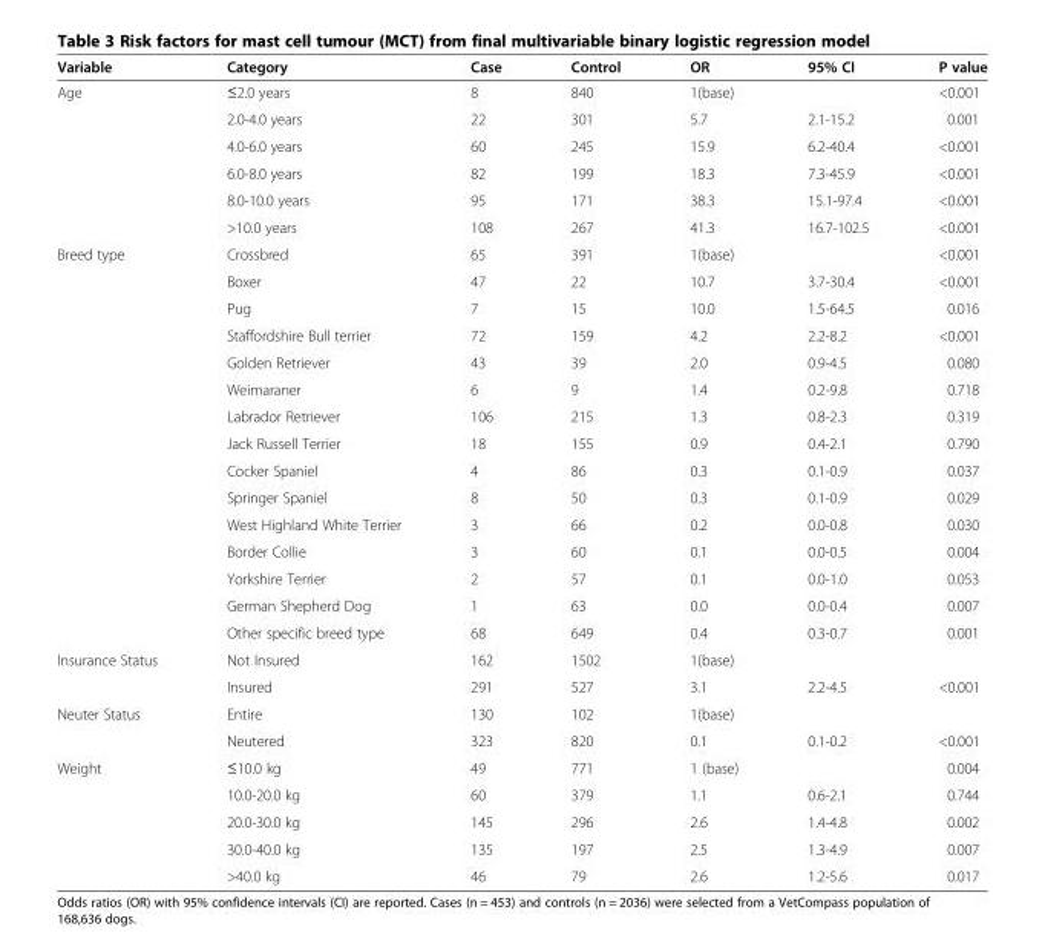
<table><thead><tr><td>Variable</td><td>Category</td><td>Case</td><td>Control</td><td>OR</td><td>95% CI</td><td>P value</td></tr></thead><tbody><tr><td rowspan="6">Age</td><td>≤2.0 years</td><td>8</td><td>840</td><td>1(base)</td><td></td><td>&lt;0.001</td></tr><tr><td>2.0-4.0 years</td><td>22</td><td>301</td><td>5.7</td><td>2.1-15.2</td><td>0.001</td></tr><tr><td>4.0-6.0 years</td><td>60</td><td>245</td><td>15.9</td><td>6.2-40.4</td><td>&lt;0.001</td></tr><tr><td>6.0-8.0 years</td><td>82</td><td>199</td><td>18.3</td><td>7.3-45.9</td><td>&lt;0.001</td></tr><tr><td>8.0-10.0 years</td><td>95</td><td>171</td><td>38.3</td><td>15.1-97.4</td><td>&lt;0.001</td></tr><tr><td>&gt;10.0 years</td><td>108</td><td>267</td><td>41.3</td><td>16.7-102.5</td><td>&lt;0.001</td></tr><tr><td rowspan="15">Breed type</td><td>Crossbred</td><td>65</td><td>391</td><td>1(base)</td><td></td><td>&lt;0.001</td></tr><tr><td>Boxer</td><td>47</td><td>22</td><td>10.7</td><td>3.7-30.4</td><td>&lt;0.001</td></tr><tr><td>Pug</td><td>7</td><td>15</td><td>10.0</td><td>1.5-64.5</td><td>0.016</td></tr><tr><td>Staffordshire Bull terrier</td><td>72</td><td>159</td><td>4.2</td><td>2.2-8.2</td><td>&lt;0.001</td></tr><tr><td>Golden Retriever</td><td>43</td><td>39</td><td>2.0</td><td>0.9-4.5</td><td>0.080</td></tr><tr><td>Weimaraner</td><td>6</td><td>9</td><td>1.4</td><td>0.2-9.8</td><td>0.718</td></tr><tr><td>Labrador Retriever</td><td>106</td><td>215</td><td>1.3</td><td>0.8-2.3</td><td>0.319</td></tr><tr><td>Jack Russell Terrier</td><td>18</td><td>155</td><td>0.9</td><td>0.4-2.1</td><td>0.790</td></tr><tr><td>Cocker Spaniel</td><td>4</td><td>86</td><td>0.3</td><td>0.1-0.9</td><td>0.037</td></tr><tr><td>Springer Spaniel</td><td>8</td><td>50</td><td>0.3</td><td>0.1-0.9</td><td>0.029</td></tr><tr><td>West Highland White Terrier</td><td>3</td><td>66</td><td>0.2</td><td>0.0-0.8</td><td>0.030</td></tr><tr><td>Border Collie</td><td>3</td><td>60</td><td>0.1</td><td>0.0-0.5</td><td>0.004</td></tr><tr><td>Yorkshire Terrier</td><td>2</td><td>57</td><td>0.1</td><td>0.0-1.0</td><td>0.053</td></tr><tr><td>German Shepherd Dog</td><td>1</td><td>63</td><td>0.0</td><td>0.0-0.4</td><td>0.007</td></tr><tr><td>Other specific breed type</td><td>68</td><td>649</td><td>0.4</td><td>0.3-0.7</td><td>0.001</td></tr><tr><td rowspan="2">Insurance Status</td><td>Not Insured</td><td>162</td><td>1502</td><td>1(base)</td><td></td><td></td></tr><tr><td>Insured</td><td>291</td><td>527</td><td>3.1</td><td>2.2-4.5</td><td>&lt;0.001</td></tr><tr><td rowspan="2">Neuter Status</td><td>Entire</td><td>130</td><td>102</td><td>1(base)</td><td></td><td></td></tr><tr><td>Neutered</td><td>323</td><td>820</td><td>0.1</td><td>0.1-0.2</td><td>&lt;0.001</td></tr><tr><td rowspan="5">Weight</td><td>≤10.0 kg</td><td>49</td><td>771</td><td>1 (base)</td><td></td><td>0.004</td></tr><tr><td>10.0-20.0 kg</td><td>60</td><td>379</td><td>1.1</td><td>0.6-2.1</td><td>0.744</td></tr><tr><td>20.0-30.0 kg</td><td>145</td><td>296</td><td>2.6</td><td>1.4-4.8</td><td>0.002</td></tr><tr><td>30.0-40.0 kg</td><td>135</td><td>197</td><td>2.5</td><td>1.3-4.9</td><td>0.007</td></tr><tr><td>&gt;40.0 kg</td><td>46</td><td>79</td><td>2.6</td><td>1.2-5.6</td><td>0.017</td></tr></tbody></table>